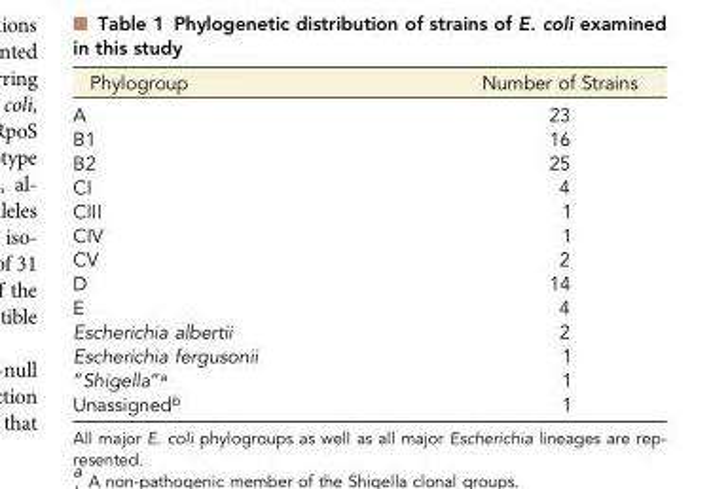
<table><thead><tr><td>Phylogroup</td><td>Number of Strains</td></tr></thead><tbody><tr><td>A</td><td>23</td></tr><tr><td>B1</td><td>16</td></tr><tr><td>B2</td><td>25</td></tr><tr><td>CI</td><td>4</td></tr><tr><td>CIII</td><td>1</td></tr><tr><td>CIV</td><td>1</td></tr><tr><td>CV</td><td>2</td></tr><tr><td>D</td><td>14</td></tr><tr><td>E</td><td>4</td></tr><tr><td>Escherichia albertii</td><td>2</td></tr><tr><td>Escherichia fergusonii</td><td>1</td></tr><tr><td>“Shigella”<sup>a</sup></td><td>1</td></tr><tr><td>Unassigned<sup>b</sup></td><td>1</td></tr></tbody></table>